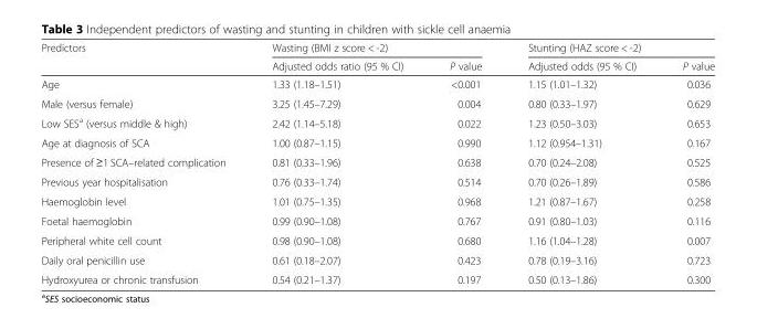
<table><thead><tr><td rowspan="2">Predictors</td><td colspan="2">Wasting (BMI z score &lt; -2)</td><td colspan="2">Stunting (HAZ score &lt; -2)</td></tr><tr><td>Adjusted odds ratio (95 % CI)</td><td>P value</td><td>Adjusted odds (95 % CI)</td><td>P value</td></tr></thead><tbody><tr><td>Age</td><td>1.33 (1.18–1.51)</td><td>&lt;0.001</td><td>1.15 (1.01–1.32)</td><td>0.036</td></tr><tr><td>Male (versus female)</td><td>3.25 (1.45–7.29)</td><td>0.004</td><td>0.80 (0.33–1.97)</td><td>0.629</td></tr><tr><td>Low SES<sup>a</sup> (versus middle &amp; high)</td><td>2.42 (1.14–5.18)</td><td>0.022</td><td>1.23 (0.50–3.03)</td><td>0.653</td></tr><tr><td>Age at diagnosis of SCA</td><td>1.00 (0.87–1.15)</td><td>0.990</td><td>1.12 (0.954–1.31)</td><td>0.167</td></tr><tr><td>Presence of ≥1 SCA–related complication</td><td>0.81 (0.33–1.96)</td><td>0.638</td><td>0.70 (0.24–2.08)</td><td>0.525</td></tr><tr><td>Previous year hospitalisation</td><td>0.76 (0.33–1.74)</td><td>0.514</td><td>0.70 (0.26–1.89)</td><td>0.586</td></tr><tr><td>Haemoglobin level</td><td>1.01 (0.75–1.35)</td><td>0.968</td><td>1.21 (0.87–1.67)</td><td>0.258</td></tr><tr><td>Foetal haemoglobin</td><td>0.99 (0.90–1.08)</td><td>0.767</td><td>0.91 (0.80–1.03)</td><td>0.116</td></tr><tr><td>Peripheral white cell count</td><td>0.98 (0.90–1.08)</td><td>0.680</td><td>1.16 (1.04–1.28)</td><td>0.007</td></tr><tr><td>Daily oral penicillin use</td><td>0.61 (0.18–2.07)</td><td>0.423</td><td>0.78 (0.19–3.16)</td><td>0.723</td></tr><tr><td>Hydroxyurea or chronic transfusion</td><td>0.54 (0.21–1.37)</td><td>0.197</td><td>0.50 (0.13–1.86)</td><td>0.300</td></tr></tbody></table>